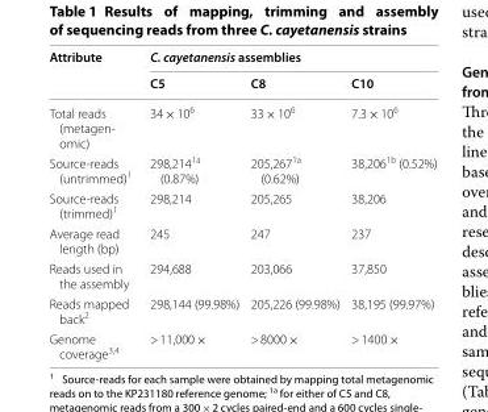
<table><thead><tr><td rowspan="2">Attribute</td><td colspan="3">C. cayetanensis assemblies</td></tr><tr><td>C5</td><td>C8</td><td>C10</td></tr></thead><tbody><tr><td>Total reads (metagen- omic)</td><td>34 × 10<sup>6</sup></td><td>33 × 10<sup>6</sup></td><td>7.3 × 10<sup>6</sup></td></tr><tr><td>Source-reads (untrimmed)<sup>1</sup></td><td>298,214<sup>1a</sup> (0.87%)</td><td>205,267<sup>1a</sup> (0.62%)</td><td>38,206<sup>1b</sup> (0.52%)</td></tr><tr><td>Source-reads (trimmed)<sup>1</sup></td><td>298,214</td><td>205,265</td><td>38,206</td></tr><tr><td>Average read length (bp)</td><td>245</td><td>247</td><td>237</td></tr><tr><td>Reads used in the assembly</td><td>294,688</td><td>203,066</td><td>37,850</td></tr><tr><td>Reads mapped back<sup>2</sup></td><td>298,144 (99.98%)</td><td>205,226 (99.98%)</td><td>38,195 (99.97%)</td></tr><tr><td>Genome coverage<sup>3,4</sup></td><td>&gt; 11,000 ×</td><td>&gt; 8000 ×</td><td>&gt; 1400 ×</td></tr></tbody></table>